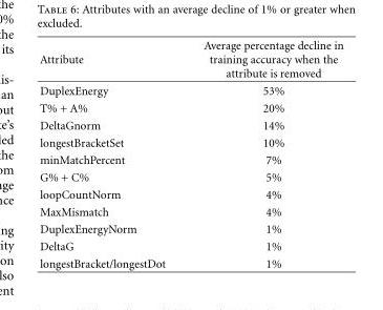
<table><thead><tr><td>Attribute</td><td>Average percentage decline in training accuracy when the attribute is removed</td></tr></thead><tbody><tr><td>DuplexEnergy</td><td>53%</td></tr><tr><td>T% + A%</td><td>20%</td></tr><tr><td>DeltaGnorm</td><td>14%</td></tr><tr><td>longestBracketSet</td><td>10%</td></tr><tr><td>minMatchPercent</td><td>7%</td></tr><tr><td>G% + C%</td><td>5%</td></tr><tr><td>loopCountNorm</td><td>4%</td></tr><tr><td>MaxMismatch</td><td>4%</td></tr><tr><td>DuplexEnergyNorm</td><td>1%</td></tr><tr><td>DeltaG</td><td>1%</td></tr><tr><td>longestBracket/longestDot</td><td>1%</td></tr></tbody></table>